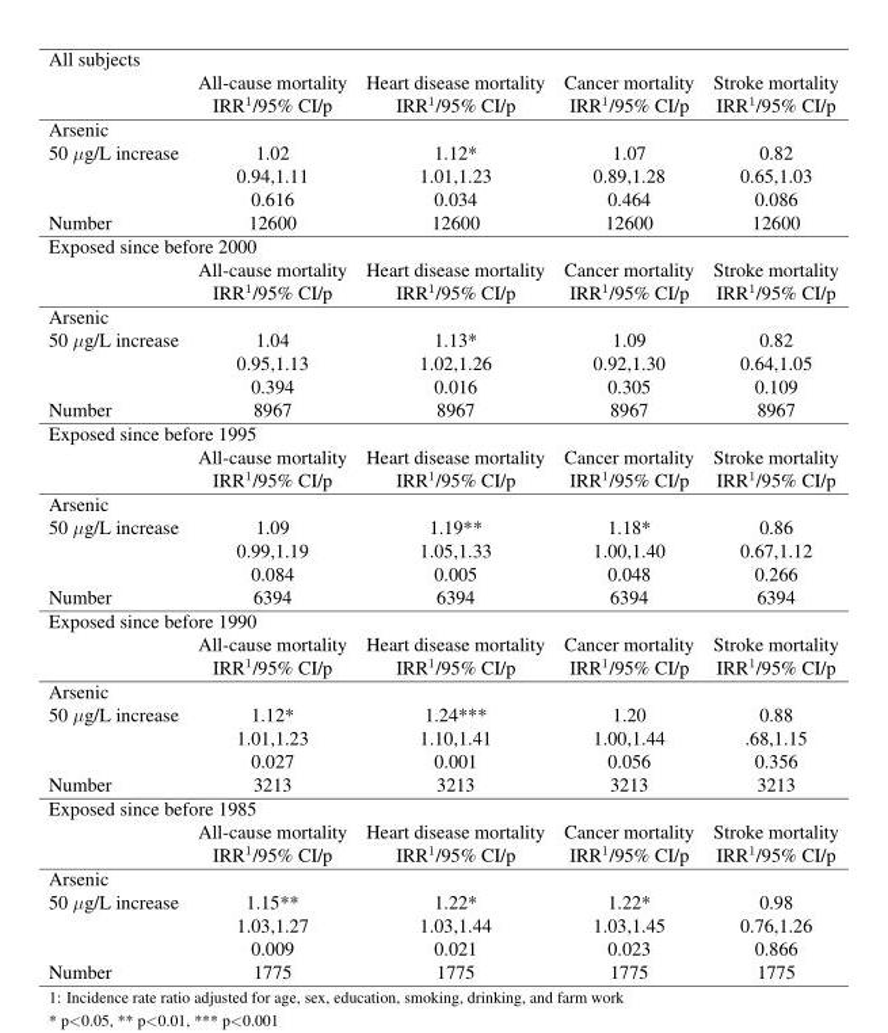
<table><thead><tr><td colspan="5">All subjects</td></tr><tr><td></td><td>All-cause mortality IRR<sup>1</sup>/95% CI/p</td><td>Heart disease mortality IRR<sup>1</sup>/95% CI/p</td><td>Cancer mortality IRR<sup>1</sup>/95% CI/p</td><td>Stroke mortality IRR<sup>1</sup>/95% CI/p</td></tr></thead><tbody><tr><td colspan="5">Arsenic</td></tr><tr><td rowspan="3">50 µg/L increase</td><td>1.02</td><td>1.12*</td><td>1.07</td><td>0.82</td></tr><tr><td>0.94,1.11</td><td>1.01,1.23</td><td>0.89,1.28</td><td>0.65,1.03</td></tr><tr><td>0.616</td><td>0.034</td><td>0.464</td><td>0.086</td></tr><tr><td>Number</td><td>12600</td><td>12600</td><td>12600</td><td>12600</td></tr><tr><td colspan="5">Exposed since before 2000</td></tr><tr><td></td><td>All-cause mortality IRR<sup>1</sup>/95% CI/p</td><td>Heart disease mortality IRR<sup>1</sup>/95% CI/p</td><td>Cancer mortality IRR<sup>1</sup>/95% CI/p</td><td>Stroke mortality IRR<sup>1</sup>/95% CI/p</td></tr><tr><td colspan="5">Arsenic</td></tr><tr><td rowspan="3">50 µg/L increase</td><td>1.04</td><td>1.13*</td><td>1.09</td><td>0.82</td></tr><tr><td>0.95,1.13</td><td>1.02,1.26</td><td>0.92,1.30</td><td>0.64,1.05</td></tr><tr><td>0.394</td><td>0.016</td><td>0.305</td><td>0.109</td></tr><tr><td>Number</td><td>8967</td><td>8967</td><td>8967</td><td>8967</td></tr><tr><td colspan="5">Exposed since before 1995</td></tr><tr><td></td><td>All-cause mortality IRR<sup>1</sup>/95% CI/p</td><td>Heart disease mortality IRR<sup>1</sup>/95% CI/p</td><td>Cancer mortality IRR<sup>1</sup>/95% CI/p</td><td>Stroke mortality IRR<sup>1</sup>/95% CI/p</td></tr><tr><td colspan="5">Arsenic</td></tr><tr><td rowspan="3">50 µg/L increase</td><td>1.09</td><td>1.19**</td><td>1.18*</td><td>0.86</td></tr><tr><td>0.99,1.19</td><td>1.05,1.33</td><td>1.00,1.40</td><td>0.67,1.12</td></tr><tr><td>0.084</td><td>0.005</td><td>0.048</td><td>0.266</td></tr><tr><td>Number</td><td>6394</td><td>6394</td><td>6394</td><td>6394</td></tr><tr><td colspan="5">Exposed since before 1990</td></tr><tr><td></td><td>All-cause mortality IRR<sup>1</sup>/95% CI/p</td><td>Heart disease mortality IRR<sup>1</sup>/95% CI/p</td><td>Cancer mortality IRR<sup>1</sup>/95% CI/p</td><td>Stroke mortality IRR<sup>1</sup>/95% CI/p</td></tr><tr><td colspan="5">Arsenic</td></tr><tr><td rowspan="3">50 µg/L increase</td><td>1.12*</td><td>1.24***</td><td>1.20</td><td>0.88</td></tr><tr><td>1.01,1.23</td><td>1.10,1.41</td><td>1.00,1.44</td><td>.68,1.15</td></tr><tr><td>0.027</td><td>0.001</td><td>0.056</td><td>0.356</td></tr><tr><td>Number</td><td>3213</td><td>3213</td><td>3213</td><td>3213</td></tr><tr><td colspan="5">Exposed since before 1985</td></tr><tr><td></td><td>All-cause mortality IRR<sup>1</sup>/95% CI/p</td><td>Heart disease mortality IRR<sup>1</sup>/95% CI/p</td><td>Cancer mortality IRR<sup>1</sup>/95% CI/p</td><td>Stroke mortality IRR<sup>1</sup>/95% CI/p</td></tr><tr><td colspan="5">Arsenic</td></tr><tr><td rowspan="3">50 µg/L increase</td><td>1.15**</td><td>1.22*</td><td>1.22*</td><td>0.98</td></tr><tr><td>1.03,1.27</td><td>1.03,1.44</td><td>1.03,1.45</td><td>0.76,1.26</td></tr><tr><td>0.009</td><td>0.021</td><td>0.023</td><td>0.866</td></tr><tr><td>Number</td><td>1775</td><td>1775</td><td>1775</td><td>1775</td></tr></tbody></table>